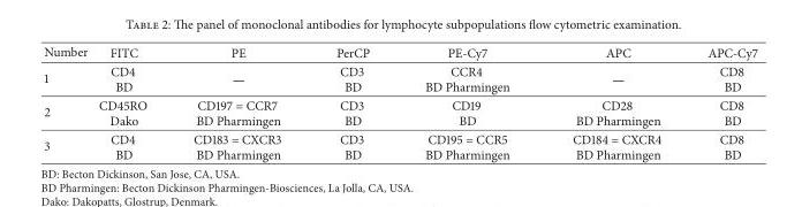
<table><thead><tr><td>Number</td><td>FITC</td><td>PE</td><td>PerCP</td><td>PE-Cy7</td><td>APC</td><td>APC-Cy7</td></tr></thead><tbody><tr><td>1</td><td>CD4 BD</td><td>—</td><td>CD3 BD</td><td>CCR4 BD Pharmingen</td><td>—</td><td>CD8 BD</td></tr><tr><td>2</td><td>CD45RO Dako</td><td>CD197 = CCR7 BD Pharmingen</td><td>CD3 BD</td><td>CD19 BD</td><td>CD28 BD Pharmingen</td><td>CD8 BD</td></tr><tr><td>3</td><td>CD4 BD</td><td>CD183 = CXCR3 BD Pharmingen</td><td>CD3 BD</td><td>CD195 = CCR5 BD Pharmingen</td><td>CD184 = CXCR4 BD Pharmingen</td><td>CD8 BD</td></tr></tbody></table>